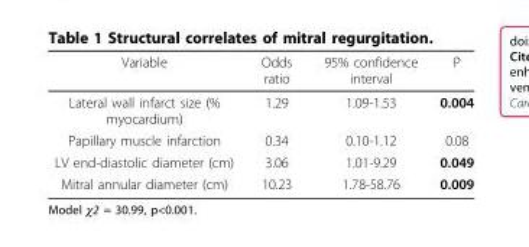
<table><thead><tr><td>Variable</td><td>Odds ratio</td><td>95% confidence interval</td><td>P</td></tr></thead><tbody><tr><td>Lateral wall infarct size (% myocardium)</td><td>1.29</td><td>1.09-1.53</td><td>0.004</td></tr><tr><td>Papillary muscle infarction</td><td>0.34</td><td>0.10-1.12</td><td>0.08</td></tr><tr><td>LV end-diastolic diameter (cm)</td><td>3.06</td><td>1.01-9.29</td><td>0.049</td></tr><tr><td>Mitral annular diameter (cm)</td><td>10.23</td><td>1.78-58.76</td><td>0.009</td></tr></tbody></table>